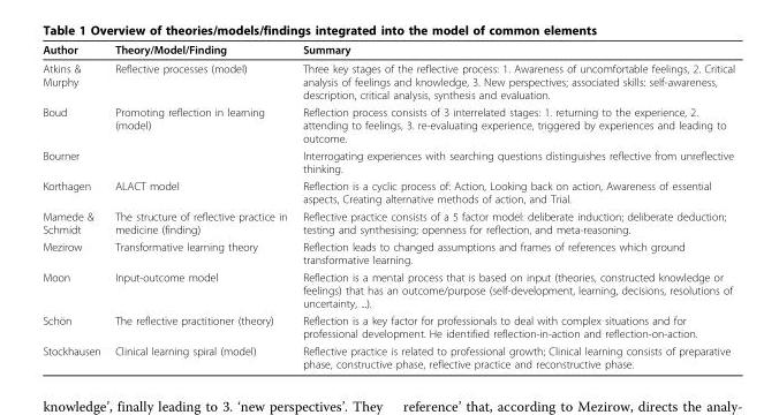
<table><thead><tr><td>Author</td><td>Theory/Model/Finding</td><td>Summary</td></tr></thead><tbody><tr><td>Atkins &amp; Murphy</td><td>Reflective processes (model)</td><td>Three key stages of the reflective process: 1. Awareness of uncomfortable feelings, 2. Critical analysis of feelings and knowledge, 3. New perspectives; associated skills: self-awareness, description, critical analysis, synthesis and evaluation.</td></tr><tr><td>Boud</td><td>Promoting reflection in learning (model)</td><td>Reflection process consists of 3 interrelated stages: 1. returning to the experience, 2. attending to feelings, 3. re-evaluating experience, triggered by experiences and leading to outcome.</td></tr><tr><td>Bourner</td><td></td><td>Interrogating experiences with searching questions distinguishes reflective from unreflective thinking.</td></tr><tr><td>Korthagen</td><td>ALACT model</td><td>Reflection is a cyclic process of: Action, Looking back on action, Awareness of essential aspects, Creating alternative methods of action, and Trial.</td></tr><tr><td>Mamede &amp; Schmidt</td><td>The structure of reflective practice in medicine (finding)</td><td>Reflective practice consists of a 5 factor model: deliberate induction; deliberate deduction; testing and synthesising; openness for reflection, and meta-reasoning.</td></tr><tr><td>Mezirow</td><td>Transformative learning theory</td><td>Reflection leads to changed assumptions and frames of references which ground transformative learning.</td></tr><tr><td>Moon</td><td>Input-outcome model</td><td>Reflection is a mental process that is based on input (theories, constructed knowledge or feelings) that has an outcome/purpose (self-development, learning, decisions, resolutions of uncertainty, ...).</td></tr><tr><td>Schön</td><td>The reflective practitioner (theory)</td><td>Reflection is a key factor for professionals to deal with complex situations and for professional development. He identified reflection-in-action and reflection-on-action.</td></tr><tr><td>Stockhausen</td><td>Clinical learning spiral (model)</td><td>Reflective practice is related to professional growth; Clinical learning consists of preparative phase, constructive phase, reflective practice and reconstructive phase.</td></tr></tbody></table>